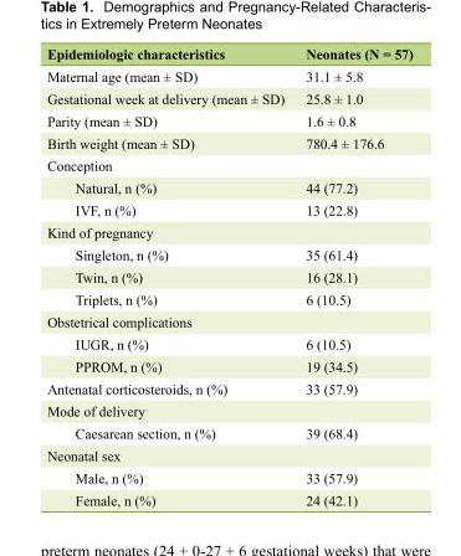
<table><thead><tr><td>Epidemiologic characteristics</td><td>Neonates (N = 57)</td></tr></thead><tbody><tr><td>Maternal age (mean ± SD)</td><td>31.1 ± 5.8</td></tr><tr><td>Gestational week at delivery (mean ± SD)</td><td>25.8 ± 1.0</td></tr><tr><td>Parity (mean ± SD)</td><td>1.6 ± 0.8</td></tr><tr><td>Birth weight (mean ± SD)</td><td>780.4 ± 176.6</td></tr><tr><td colspan="2">Conception</td></tr><tr><td>Natural, n (%)</td><td>44 (77.2)</td></tr><tr><td>IVF, n (%)</td><td>13 (22.8)</td></tr><tr><td colspan="2">Kind of pregnancy</td></tr><tr><td>Singleton, n (%)</td><td>35 (61.4)</td></tr><tr><td>Twin, n (%)</td><td>16 (28.1)</td></tr><tr><td>Triplets, n (%)</td><td>6 (10.5)</td></tr><tr><td colspan="2">Obstetrical complications</td></tr><tr><td>IUGR, n (%)</td><td>6 (10.5)</td></tr><tr><td>PPROM, n (%)</td><td>19 (34.5)</td></tr><tr><td>Antenatal corticosteroids, n (%)</td><td>33 (57.9)</td></tr><tr><td colspan="2">Mode of delivery</td></tr><tr><td>Caesarean section, n (%)</td><td>39 (68.4)</td></tr><tr><td colspan="2">Neonatal sex</td></tr><tr><td>Male, n (%)</td><td>33 (57.9)</td></tr><tr><td>Female, n (%)</td><td>24 (42.1)</td></tr></tbody></table>